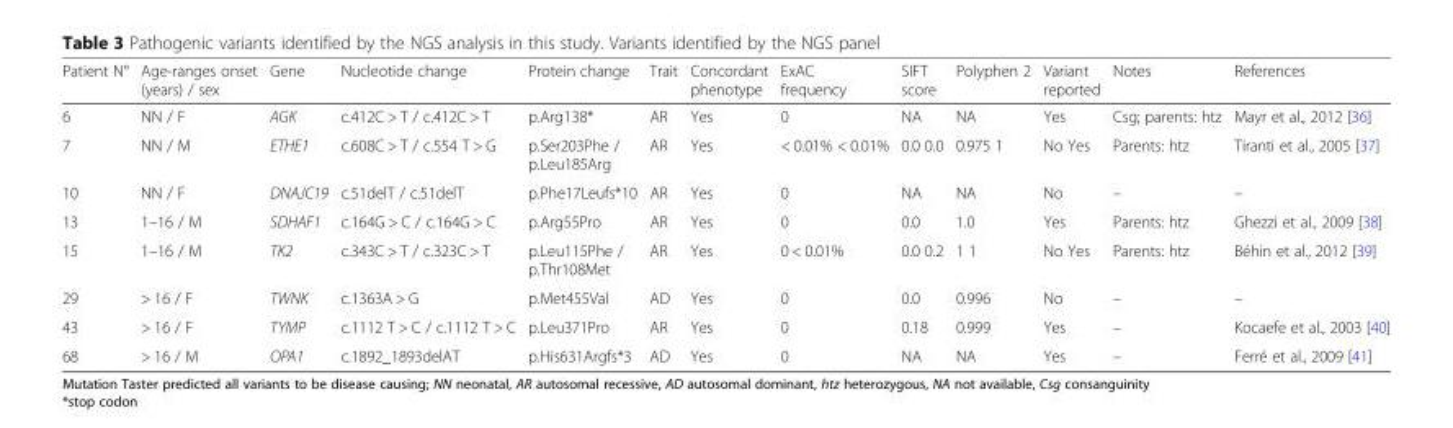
<table><thead><tr><td>Patient N°</td><td>Age-ranges onset (years) / sex</td><td>Gene</td><td>Nucleotide change</td><td>Protein change</td><td>Trait</td><td>Concordant phenotype</td><td>ExAC frequency</td><td>SIFT score</td><td>Polyphen 2</td><td>Variant reported</td><td>Notes</td><td>References</td></tr></thead><tbody><tr><td>6</td><td>NN / F</td><td>AGK</td><td>c.412C &gt; T / c.412C &gt; T</td><td>p.Arg138*</td><td>AR</td><td>Yes</td><td>0</td><td>NA</td><td>NA</td><td>Yes</td><td>Csg; parents: htz</td><td>Mayr et al., 2012 [36]</td></tr><tr><td>7</td><td>NN / M</td><td>ETHE1</td><td>c.608C &gt; T / c.554 T &gt; G</td><td>p.Ser203Phe / p.Leu185Arg</td><td>AR</td><td>Yes</td><td>&lt; 0.01% &lt; 0.01%</td><td>0.0 0.0</td><td>0.975 1</td><td>No Yes</td><td>Parents: htz</td><td>Tiranti et al., 2005 [37]</td></tr><tr><td>10</td><td>NN / F</td><td>DNAJC19</td><td>c.51delT / c.51delT</td><td>p.Phe17Leufs*10</td><td>AR</td><td>Yes</td><td>0</td><td>NA</td><td>NA</td><td>No</td><td>–</td><td>–</td></tr><tr><td>13</td><td>1–16 / M</td><td>SDHAF1</td><td>c.164G &gt; C / c.164G &gt; C</td><td>p.Arg55Pro</td><td>AR</td><td>Yes</td><td>0</td><td>0.0</td><td>1.0</td><td>Yes</td><td>Parents: htz</td><td>Ghezzi et al., 2009 [38]</td></tr><tr><td>15</td><td>1–16 / M</td><td>TK2</td><td>c.343C &gt; T / c.323C &gt; T</td><td>p.Leu115Phe / p.Thr108Met</td><td>AR</td><td>Yes</td><td>0 &lt; 0.01%</td><td>0.0 0.2</td><td>1 1</td><td>No Yes</td><td>Parents: htz</td><td>Béhin et al., 2012 [39]</td></tr><tr><td>29</td><td>&gt; 16 / F</td><td>TWNK</td><td>c.1363A &gt; G</td><td>p.Met455Val</td><td>AD</td><td>Yes</td><td>0</td><td>0.0</td><td>0.996</td><td>No</td><td>–</td><td>–</td></tr><tr><td>43</td><td>&gt; 16 / F</td><td>TYMP</td><td>c.1112 T &gt; C / c.1112 T &gt; C</td><td>p.Leu371Pro</td><td>AR</td><td>Yes</td><td>0</td><td>0.18</td><td>0.999</td><td>Yes</td><td>–</td><td>Kocaefe et al., 2003 [40]</td></tr><tr><td>68</td><td>&gt; 16 / M</td><td>OPA1</td><td>c.1892_1893delAT</td><td>p.His631Argfs*3</td><td>AD</td><td>Yes</td><td>0</td><td>NA</td><td>NA</td><td>Yes</td><td>–</td><td>Ferré et al., 2009 [41]</td></tr></tbody></table>